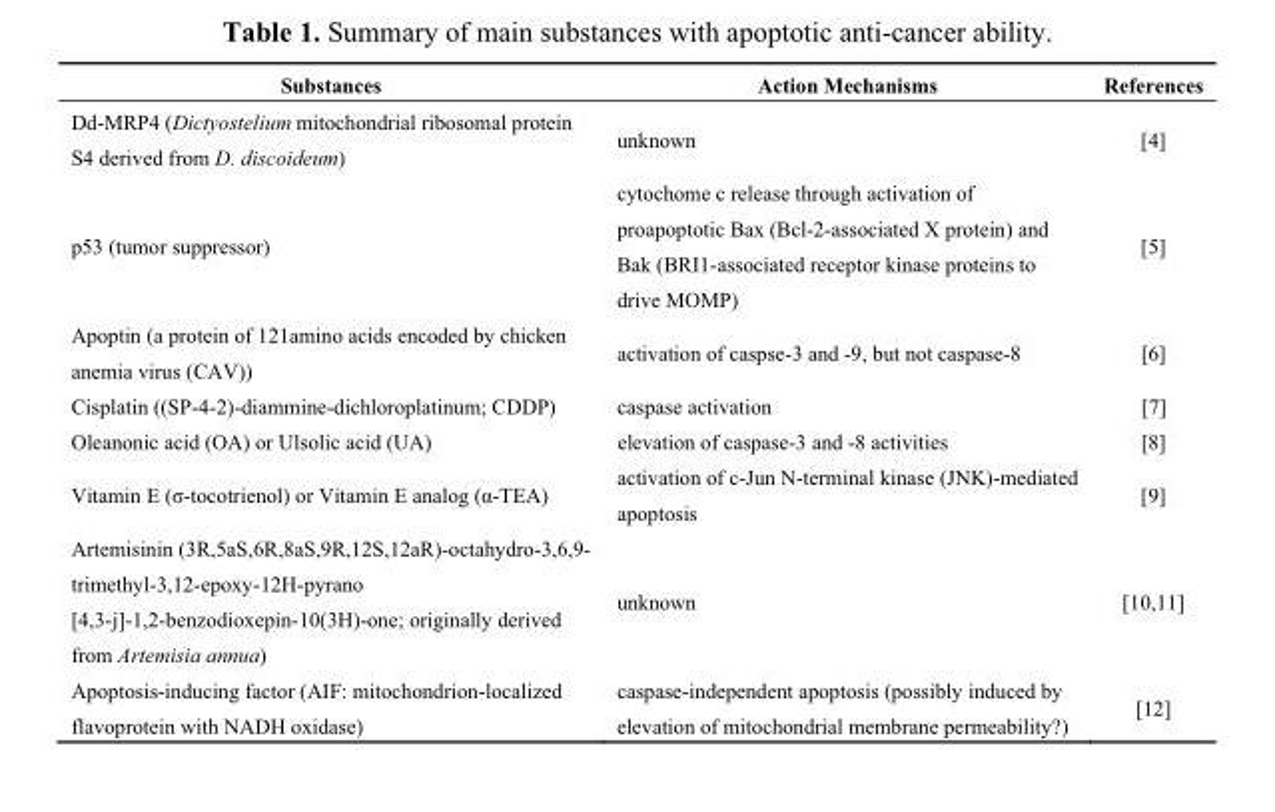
<table><thead><tr><td>Substances</td><td>Action Mechanisms</td><td>References</td></tr></thead><tbody><tr><td>Dd-MRP4 (Dictyostelium mitochondrial ribosomal protein S4 derived from D. discoideum)</td><td>unknown</td><td>[4]</td></tr><tr><td>p53 (tumor suppressor)</td><td>cytochome c release through activation of proapoptotic Bax (Bcl-2-associated X protein) and Bak (BRI1-associated receptor kinase proteins to drive MOMP)</td><td>[5]</td></tr><tr><td>Apoptin (a protein of 121amino acids encoded by chicken anemia virus (CAV))</td><td>activation of caspse-3 and -9, but not caspase-8</td><td>[6]</td></tr><tr><td>Cisplatin ((SP-4-2)-diammine-dichloroplatinum; CDDP)</td><td>caspase activation</td><td>[7]</td></tr><tr><td>Oleanonic acid (OA) or Ulsolic acid (UA)</td><td>elevation of caspase-3 and -8 activities</td><td>[8]</td></tr><tr><td>Vitamin E (σ-tocotrienol) or Vitamin E analog (α-TEA)</td><td>activation of c-Jun N-terminal kinase (JNK)-mediated apoptosis</td><td>[9]</td></tr><tr><td>Artemisinin (3R,5aS,6R,8aS,9R,12S,12aR)-octahydro-3,6,9- trimethyl-3,12-epoxy-12H-pyrano [4,3-j]-1,2-benzodioxepin-10(3H)-one; originally derived from Artemisia annua)</td><td>unknown</td><td>[10,11]</td></tr><tr><td>Apoptosis-inducing factor (AIF: mitochondrion-localized flavoprotein with NADH oxidase)</td><td>caspase-independent apoptosis (possibly induced by elevation of mitochondrial membrane permeability?)</td><td>[12]</td></tr></tbody></table>